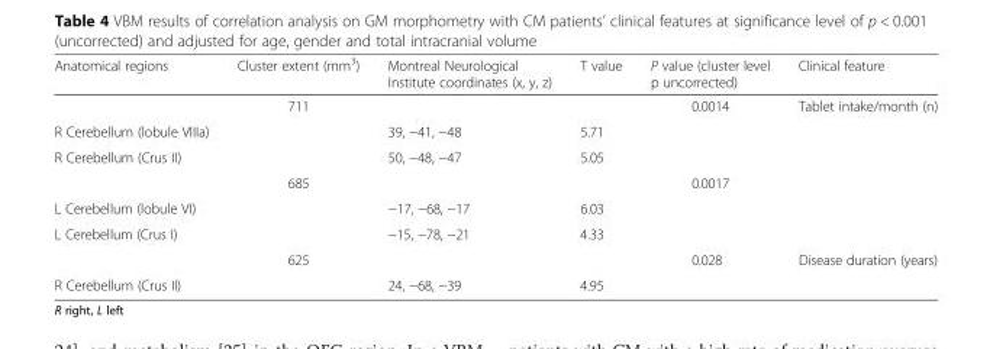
<table><thead><tr><td>Anatomical regions</td><td>Cluster extent (mm<sup>3</sup>)</td><td>Montreal Neurological Institute coordinates (x, y, z)</td><td>T value</td><td>P value (cluster level p uncorrected)</td><td>Clinical feature</td></tr></thead><tbody><tr><td></td><td>711</td><td></td><td></td><td>0.0014</td><td>Tablet intake/month (n)</td></tr><tr><td>R Cerebellum (lobule VIIIa)</td><td></td><td>39, −41, −48</td><td>5.71</td><td></td><td></td></tr><tr><td rowspan="2">R Cerebellum (Crus II)</td><td></td><td>50, −48, −47</td><td>5.05</td><td></td><td></td></tr><tr><td>685</td><td></td><td></td><td>0.0017</td><td></td></tr><tr><td>L Cerebellum (lobule VI)</td><td></td><td>−17, −68, −17</td><td>6.03</td><td></td><td></td></tr><tr><td rowspan="2">L Cerebellum (Crus I)</td><td></td><td>−15, −78, −21</td><td>4.33</td><td></td><td></td></tr><tr><td>625</td><td></td><td></td><td>0.028</td><td>Disease duration (years)</td></tr><tr><td>R Cerebellum (Crus II)</td><td></td><td>24, −68, −39</td><td>4.95</td><td></td><td></td></tr></tbody></table>